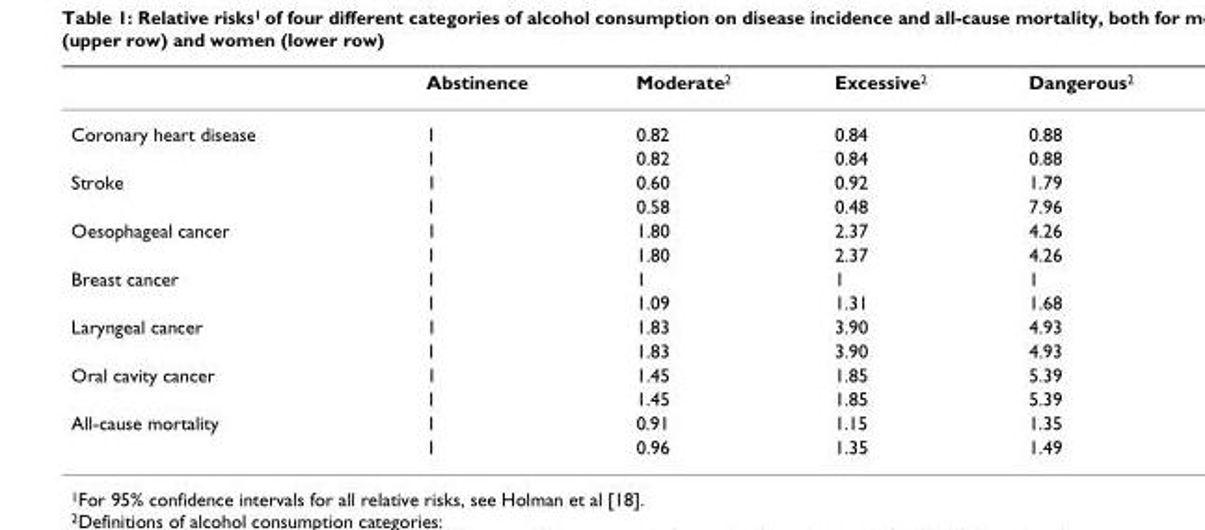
<table><thead><tr><td></td><td>Abstinence</td><td>Moderate<sup>2</sup></td><td>Excessive<sup>2</sup></td><td>Dangerous<sup>2</sup></td></tr></thead><tbody><tr><td rowspan="2">Coronary heart disease</td><td>1</td><td>0.82</td><td>0.84</td><td>0.88</td></tr><tr><td>1</td><td>0.82</td><td>0.84</td><td>0.88</td></tr><tr><td rowspan="2">Stroke</td><td>1</td><td>0.60</td><td>0.92</td><td>1.79</td></tr><tr><td>1</td><td>0.58</td><td>0.48</td><td>7.96</td></tr><tr><td rowspan="2">Oesophageal cancer</td><td>1</td><td>1.80</td><td>2.37</td><td>4.26</td></tr><tr><td>1</td><td>1.80</td><td>2.37</td><td>4.26</td></tr><tr><td rowspan="2">Breast cancer</td><td>1</td><td>1</td><td>1</td><td>1</td></tr><tr><td>1</td><td>1.09</td><td>1.31</td><td>1.68</td></tr><tr><td rowspan="2">Laryngeal cancer</td><td>1</td><td>1.83</td><td>3.90</td><td>4.93</td></tr><tr><td>1</td><td>1.83</td><td>3.90</td><td>4.93</td></tr><tr><td rowspan="2">Oral cavity cancer</td><td>1</td><td>1.45</td><td>1.85</td><td>5.39</td></tr><tr><td>1</td><td>1.45</td><td>1.85</td><td>5.39</td></tr><tr><td rowspan="2">All-cause mortality</td><td>1</td><td>0.91</td><td>1.15</td><td>1.35</td></tr><tr><td>1</td><td>0.96</td><td>1.35</td><td>1.49</td></tr></tbody></table>